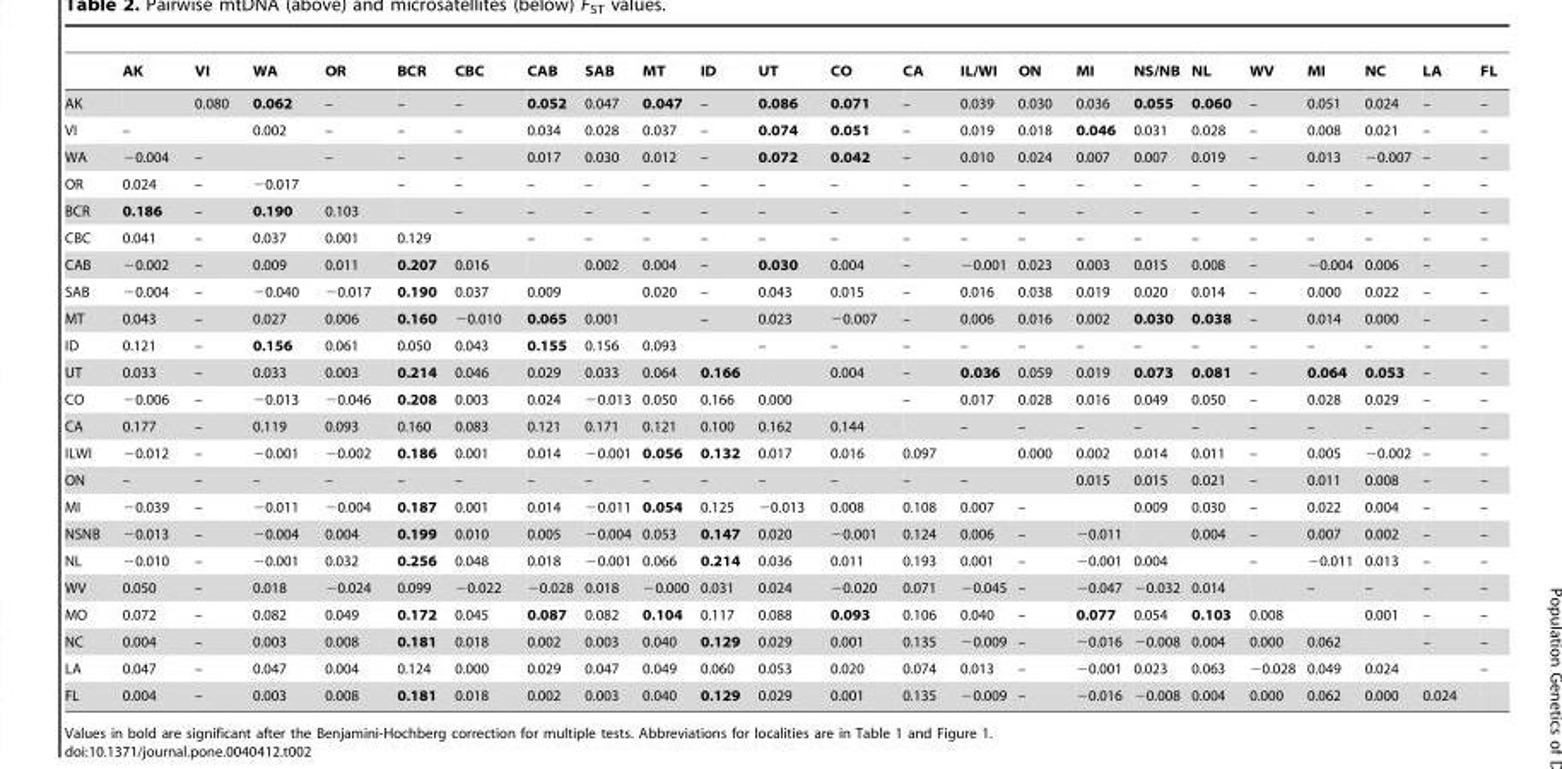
<table><thead><tr><td></td><td>AK</td><td>VI</td><td>WA</td><td>OR</td><td>BCR</td><td>CBC</td><td>CAB</td><td>SAB</td><td>MT</td><td>ID</td><td>UT</td><td>CO</td><td>CA</td><td>IL/WI</td><td>ON</td><td>MI</td><td>NS/NB</td><td>NL</td><td>WV</td><td>MI</td><td>NC</td><td>LA</td><td>FL</td></tr></thead><tbody><tr><td>AK</td><td></td><td>0.080</td><td>0.062</td><td>–</td><td>–</td><td>–</td><td>0.052</td><td>0.047</td><td>0.047</td><td>–</td><td>0.086</td><td>0.071</td><td>–</td><td>0.039</td><td>0.030</td><td>0.036</td><td>0.055</td><td>0.060</td><td>–</td><td>0.051</td><td>0.024</td><td>–</td><td>–</td></tr><tr><td>VI</td><td>–</td><td></td><td>0.002</td><td>–</td><td>–</td><td>–</td><td>0.034</td><td>0.028</td><td>0.037</td><td>–</td><td>0.074</td><td>0.051</td><td>–</td><td>0.019</td><td>0.018</td><td>0.046</td><td>0.031</td><td>0.028</td><td>–</td><td>0.008</td><td>0.021</td><td>–</td><td>–</td></tr><tr><td>WA</td><td>−0.004</td><td>–</td><td></td><td>–</td><td>–</td><td>–</td><td>0.017</td><td>0.030</td><td>0.012</td><td>–</td><td>0.072</td><td>0.042</td><td>–</td><td>0.010</td><td>0.024</td><td>0.007</td><td>0.007</td><td>0.019</td><td>–</td><td>0.013</td><td>−0.007</td><td>–</td><td>–</td></tr><tr><td>OR</td><td>0.024</td><td>–</td><td>−0.017</td><td></td><td>–</td><td>–</td><td>–</td><td>–</td><td>–</td><td>–</td><td>–</td><td>–</td><td>–</td><td>–</td><td>–</td><td>–</td><td>–</td><td>–</td><td>–</td><td>–</td><td>–</td><td>–</td><td>–</td></tr><tr><td>BCR</td><td>0.186</td><td>–</td><td>0.190</td><td>0.103</td><td></td><td>–</td><td>–</td><td>–</td><td>–</td><td>–</td><td>–</td><td>–</td><td>–</td><td>–</td><td>–</td><td>–</td><td>–</td><td>–</td><td>–</td><td>–</td><td>–</td><td>–</td><td>–</td></tr><tr><td>CBC</td><td>0.041</td><td>–</td><td>0.037</td><td>0.001</td><td>0.129</td><td></td><td>–</td><td>–</td><td>–</td><td>–</td><td>–</td><td>–</td><td>–</td><td>–</td><td>–</td><td>–</td><td>–</td><td>–</td><td>–</td><td>–</td><td>–</td><td>–</td><td>–</td></tr><tr><td>CAB</td><td>−0.002</td><td>–</td><td>0.009</td><td>0.011</td><td>0.207</td><td>0.016</td><td></td><td>0.002</td><td>0.004</td><td>–</td><td>0.030</td><td>0.004</td><td>–</td><td>−0.001</td><td>0.023</td><td>0.003</td><td>0.015</td><td>0.008</td><td>–</td><td>−0.004</td><td>0.006</td><td>–</td><td>–</td></tr><tr><td>SAB</td><td>−0.004</td><td>–</td><td>−0.040</td><td>−0.017</td><td>0.190</td><td>0.037</td><td>0.009</td><td></td><td>0.020</td><td>–</td><td>0.043</td><td>0.015</td><td>–</td><td>0.016</td><td>0.038</td><td>0.019</td><td>0.020</td><td>0.014</td><td>–</td><td>0.000</td><td>0.022</td><td>–</td><td>–</td></tr><tr><td>MT</td><td>0.043</td><td>–</td><td>0.027</td><td>0.006</td><td>0.160</td><td>−0.010</td><td>0.065</td><td>0.001</td><td></td><td>–</td><td>0.023</td><td>−0.007</td><td>–</td><td>0.006</td><td>0.016</td><td>0.002</td><td>0.030</td><td>0.038</td><td>–</td><td>0.014</td><td>0.000</td><td>–</td><td>–</td></tr><tr><td>ID</td><td>0.121</td><td>–</td><td>0.156</td><td>0.061</td><td>0.050</td><td>0.043</td><td>0.155</td><td>0.156</td><td>0.093</td><td></td><td>–</td><td>–</td><td>–</td><td>–</td><td>–</td><td>–</td><td>–</td><td>–</td><td>–</td><td>–</td><td>–</td><td>–</td><td>–</td></tr><tr><td>UT</td><td>0.033</td><td>–</td><td>0.033</td><td>0.003</td><td>0.214</td><td>0.046</td><td>0.029</td><td>0.033</td><td>0.064</td><td>0.166</td><td></td><td>0.004</td><td>–</td><td>0.036</td><td>0.059</td><td>0.019</td><td>0.073</td><td>0.081</td><td>–</td><td>0.064</td><td>0.053</td><td>–</td><td>–</td></tr><tr><td>CO</td><td>−0.006</td><td>–</td><td>−0.013</td><td>−0.046</td><td>0.208</td><td>0.003</td><td>0.024</td><td>−0.013</td><td>0.050</td><td>0.166</td><td>0.000</td><td></td><td>–</td><td>0.017</td><td>0.028</td><td>0.016</td><td>0.049</td><td>0.050</td><td>–</td><td>0.028</td><td>0.029</td><td>–</td><td>–</td></tr><tr><td>CA</td><td>0.177</td><td>–</td><td>0.119</td><td>0.093</td><td>0.160</td><td>0.083</td><td>0.121</td><td>0.171</td><td>0.121</td><td>0.100</td><td>0.162</td><td>0.144</td><td></td><td>–</td><td>–</td><td>–</td><td>–</td><td>–</td><td>–</td><td>–</td><td>–</td><td>–</td><td>–</td></tr><tr><td>ILWI</td><td>−0.012</td><td>–</td><td>−0.001</td><td>−0.002</td><td>0.186</td><td>0.001</td><td>0.014</td><td>−0.001</td><td>0.056</td><td>0.132</td><td>0.017</td><td>0.016</td><td>0.097</td><td></td><td>0.000</td><td>0.002</td><td>0.014</td><td>0.011</td><td>–</td><td>0.005</td><td>−0.002</td><td>–</td><td>–</td></tr><tr><td>ON</td><td>–</td><td>–</td><td>–</td><td>–</td><td>–</td><td>–</td><td>–</td><td>–</td><td>–</td><td>–</td><td>–</td><td>–</td><td>–</td><td>–</td><td></td><td>0.015</td><td>0.015</td><td>0.021</td><td>–</td><td>0.011</td><td>0.008</td><td>–</td><td>–</td></tr><tr><td>MI</td><td>−0.039</td><td>–</td><td>−0.011</td><td>−0.004</td><td>0.187</td><td>0.001</td><td>0.014</td><td>−0.011</td><td>0.054</td><td>0.125</td><td>−0.013</td><td>0.008</td><td>0.108</td><td>0.007</td><td>–</td><td></td><td>0.009</td><td>0.030</td><td>–</td><td>0.022</td><td>0.004</td><td>–</td><td>–</td></tr><tr><td>NSNB</td><td>−0.013</td><td>–</td><td>−0.004</td><td>0.004</td><td>0.199</td><td>0.010</td><td>0.005</td><td>−0.004</td><td>0.053</td><td>0.147</td><td>0.020</td><td>−0.001</td><td>0.124</td><td>0.006</td><td>–</td><td>−0.011</td><td></td><td>0.004</td><td>–</td><td>0.007</td><td>0.002</td><td>–</td><td>–</td></tr><tr><td>NL</td><td>−0.010</td><td>–</td><td>−0.001</td><td>0.032</td><td>0.256</td><td>0.048</td><td>0.018</td><td>−0.001</td><td>0.066</td><td>0.214</td><td>0.036</td><td>0.011</td><td>0.193</td><td>0.001</td><td>–</td><td>−0.001</td><td>0.004</td><td></td><td>–</td><td>−0.011</td><td>0.013</td><td>–</td><td>–</td></tr><tr><td>WV</td><td>0.050</td><td>–</td><td>0.018</td><td>−0.024</td><td>0.099</td><td>−0.022</td><td>−0.028</td><td>0.018</td><td>−0.000</td><td>0.031</td><td>0.024</td><td>−0.020</td><td>0.071</td><td>−0.045</td><td>–</td><td>−0.047</td><td>−0.032</td><td>0.014</td><td></td><td>–</td><td>–</td><td>–</td><td>–</td></tr><tr><td>MO</td><td>0.072</td><td>–</td><td>0.082</td><td>0.049</td><td>0.172</td><td>0.045</td><td>0.087</td><td>0.082</td><td>0.104</td><td>0.117</td><td>0.088</td><td>0.093</td><td>0.106</td><td>0.040</td><td>–</td><td>0.077</td><td>0.054</td><td>0.103</td><td>0.008</td><td></td><td>0.001</td><td>–</td><td>–</td></tr><tr><td>NC</td><td>0.004</td><td>–</td><td>0.003</td><td>0.008</td><td>0.181</td><td>0.018</td><td>0.002</td><td>0.003</td><td>0.040</td><td>0.129</td><td>0.029</td><td>0.001</td><td>0.135</td><td>−0.009</td><td>–</td><td>−0.016</td><td>−0.008</td><td>0.004</td><td>0.000</td><td>0.062</td><td></td><td>–</td><td>–</td></tr><tr><td>LA</td><td>0.047</td><td>–</td><td>0.047</td><td>0.004</td><td>0.124</td><td>0.000</td><td>0.029</td><td>0.047</td><td>0.049</td><td>0.060</td><td>0.053</td><td>0.020</td><td>0.074</td><td>0.013</td><td>–</td><td>−0.001</td><td>0.023</td><td>0.063</td><td>−0.028</td><td>0.049</td><td>0.024</td><td></td><td>–</td></tr><tr><td>FL</td><td>0.004</td><td>–</td><td>0.003</td><td>0.008</td><td>0.181</td><td>0.018</td><td>0.002</td><td>0.003</td><td>0.040</td><td>0.129</td><td>0.029</td><td>0.001</td><td>0.135</td><td>−0.009</td><td>–</td><td>−0.016</td><td>−0.008</td><td>0.004</td><td>0.000</td><td>0.062</td><td>0.000</td><td>0.024</td><td></td></tr></tbody></table>